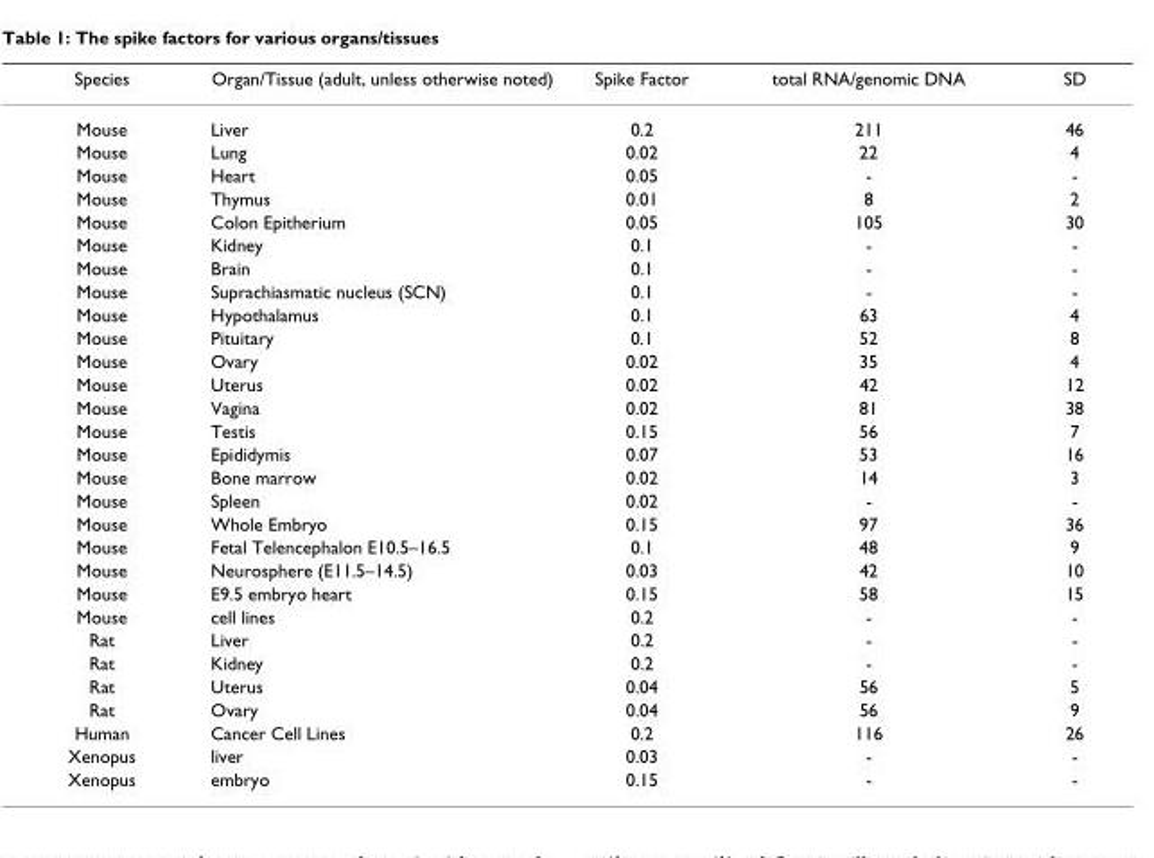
<table><thead><tr><td>Species</td><td>Organ/Tissue (adult, unless otherwise noted)</td><td>Spike Factor</td><td>total RNA/genomic DNA</td><td>SD</td></tr></thead><tbody><tr><td>Mouse</td><td>Liver</td><td>0.2</td><td>211</td><td>46</td></tr><tr><td>Mouse</td><td>Lung</td><td>0.02</td><td>22</td><td>4</td></tr><tr><td>Mouse</td><td>Heart</td><td>0.05</td><td>-</td><td>-</td></tr><tr><td>Mouse</td><td>Thymus</td><td>0.01</td><td>8</td><td>2</td></tr><tr><td>Mouse</td><td>Colon Epitherium</td><td>0.05</td><td>105</td><td>30</td></tr><tr><td>Mouse</td><td>Kidney</td><td>0.1</td><td>-</td><td>-</td></tr><tr><td>Mouse</td><td>Brain</td><td>0.1</td><td>-</td><td>-</td></tr><tr><td>Mouse</td><td>Suprachiasmatic nucleus (SCN)</td><td>0.1</td><td>-</td><td>-</td></tr><tr><td>Mouse</td><td>Hypothalamus</td><td>0.1</td><td>63</td><td>4</td></tr><tr><td>Mouse</td><td>Pituitary</td><td>0.1</td><td>52</td><td>8</td></tr><tr><td>Mouse</td><td>Ovary</td><td>0.02</td><td>35</td><td>4</td></tr><tr><td>Mouse</td><td>Uterus</td><td>0.02</td><td>42</td><td>12</td></tr><tr><td>Mouse</td><td>Vagina</td><td>0.02</td><td>81</td><td>38</td></tr><tr><td>Mouse</td><td>Testis</td><td>0.15</td><td>56</td><td>7</td></tr><tr><td>Mouse</td><td>Epididymis</td><td>0.07</td><td>53</td><td>16</td></tr><tr><td>Mouse</td><td>Bone marrow</td><td>0.02</td><td>14</td><td>3</td></tr><tr><td>Mouse</td><td>Spleen</td><td>0.02</td><td>-</td><td>-</td></tr><tr><td>Mouse</td><td>Whole Embryo</td><td>0.15</td><td>97</td><td>36</td></tr><tr><td>Mouse</td><td>Fetal Telencephalon E10.5–16.5</td><td>0.1</td><td>48</td><td>9</td></tr><tr><td>Mouse</td><td>Neurosphere (E11.5–14.5)</td><td>0.03</td><td>42</td><td>10</td></tr><tr><td>Mouse</td><td>E9.5 embryo heart</td><td>0.15</td><td>58</td><td>15</td></tr><tr><td>Mouse</td><td>cell lines</td><td>0.2</td><td>-</td><td>-</td></tr><tr><td>Rat</td><td>Liver</td><td>0.2</td><td>-</td><td>-</td></tr><tr><td>Rat</td><td>Kidney</td><td>0.2</td><td>-</td><td>-</td></tr><tr><td>Rat</td><td>Uterus</td><td>0.04</td><td>56</td><td>5</td></tr><tr><td>Rat</td><td>Ovary</td><td>0.04</td><td>56</td><td>9</td></tr><tr><td>Human</td><td>Cancer Cell Lines</td><td>0.2</td><td>116</td><td>26</td></tr><tr><td>Xenopus</td><td>liver</td><td>0.03</td><td>-</td><td>-</td></tr><tr><td>Xenopus</td><td>embryo</td><td>0.15</td><td>-</td><td>-</td></tr></tbody></table>